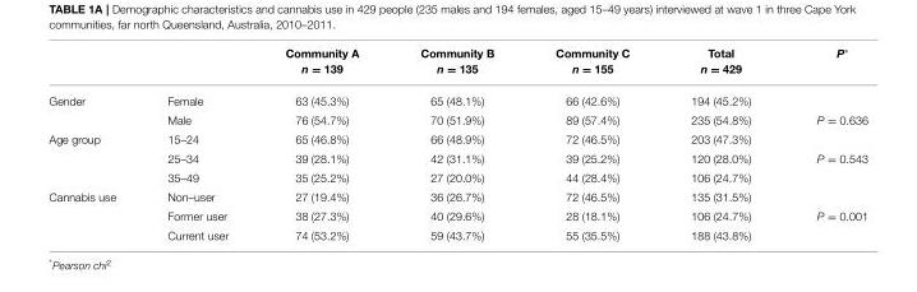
<table><thead><tr><td></td><td></td><td>Community A n = 139</td><td>Community B n = 135</td><td>Community C n = 155</td><td>Total n = 429</td><td>P*</td></tr></thead><tbody><tr><td rowspan="2">Gender</td><td>Female</td><td>63 (45.3%)</td><td>65 (48.1%)</td><td>66 (42.6%)</td><td>194 (45.2%)</td><td></td></tr><tr><td>Male</td><td>76 (54.7%)</td><td>70 (51.9%)</td><td>89 (57.4%)</td><td>235 (54.8%)</td><td>P = 0.636</td></tr><tr><td rowspan="3">Age group</td><td>15–24</td><td>65 (46.8%)</td><td>66 (48.9%)</td><td>72 (46.5%)</td><td>203 (47.3%)</td><td></td></tr><tr><td>25–34</td><td>39 (28.1%)</td><td>42 (31.1%)</td><td>39 (25.2%)</td><td>120 (28.0%)</td><td>P = 0.543</td></tr><tr><td>35–49</td><td>35 (25.2%)</td><td>27 (20.0%)</td><td>44 (28.4%)</td><td>106 (24.7%)</td><td></td></tr><tr><td rowspan="3">Cannabis use</td><td>Non–user</td><td>27 (19.4%)</td><td>36 (26.7%)</td><td>72 (46.5%)</td><td>135 (31.5%)</td><td></td></tr><tr><td>Former user</td><td>38 (27.3%)</td><td>40 (29.6%)</td><td>28 (18.1%)</td><td>106 (24.7%)</td><td>P = 0.001</td></tr><tr><td>Current user</td><td>74 (53.2%)</td><td>59 (43.7%)</td><td>55 (35.5%)</td><td>188 (43.8%)</td><td></td></tr></tbody></table>